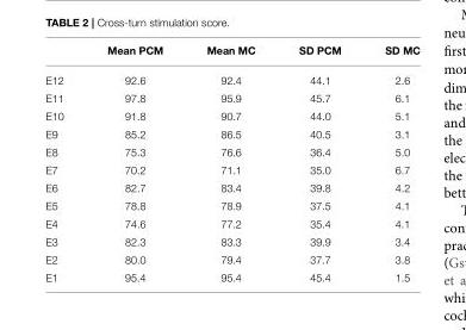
<table><thead><tr><td></td><td>Mean PCM</td><td>Mean MC</td><td>SD PCM</td><td>SD MC</td></tr></thead><tbody><tr><td>E12</td><td>92.6</td><td>92.4</td><td>44.1</td><td>2.6</td></tr><tr><td>E11</td><td>97.8</td><td>95.9</td><td>45.7</td><td>6.1</td></tr><tr><td>E10</td><td>91.8</td><td>90.7</td><td>44.0</td><td>5.1</td></tr><tr><td>E9</td><td>85.2</td><td>86.5</td><td>40.5</td><td>3.1</td></tr><tr><td>E8</td><td>75.3</td><td>76.6</td><td>36.4</td><td>5.0</td></tr><tr><td>E7</td><td>70.2</td><td>71.1</td><td>35.0</td><td>6.7</td></tr><tr><td>E6</td><td>82.7</td><td>83.4</td><td>39.8</td><td>4.2</td></tr><tr><td>E5</td><td>78.8</td><td>78.9</td><td>37.5</td><td>4.1</td></tr><tr><td>E4</td><td>74.6</td><td>77.2</td><td>35.4</td><td>4.1</td></tr><tr><td>E3</td><td>82.3</td><td>83.3</td><td>39.9</td><td>3.4</td></tr><tr><td>E2</td><td>80.0</td><td>79.4</td><td>37.7</td><td>3.8</td></tr><tr><td>E1</td><td>95.4</td><td>95.4</td><td>45.4</td><td>1.5</td></tr></tbody></table>